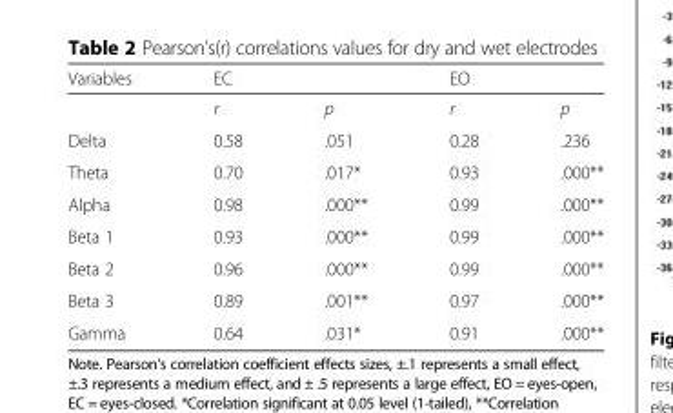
<table><thead><tr><td rowspan="2">Variables</td><td colspan="2">EC</td><td colspan="2">EO</td></tr><tr><td>r</td><td>p</td><td>r</td><td>p</td></tr></thead><tbody><tr><td>Delta</td><td>0.58</td><td>.051</td><td>0.28</td><td>.236</td></tr><tr><td>Theta</td><td>0.70</td><td>.017*</td><td>0.93</td><td>.000**</td></tr><tr><td>Alpha</td><td>0.98</td><td>.000**</td><td>0.99</td><td>.000**</td></tr><tr><td>Beta 1</td><td>0.93</td><td>.000**</td><td>0.99</td><td>.000**</td></tr><tr><td>Beta 2</td><td>0.96</td><td>.000**</td><td>0.99</td><td>.000**</td></tr><tr><td>Beta 3</td><td>0.89</td><td>.001**</td><td>0.97</td><td>.000**</td></tr><tr><td>Gamma</td><td>0.64</td><td>.031*</td><td>0.91</td><td>.000**</td></tr></tbody></table>